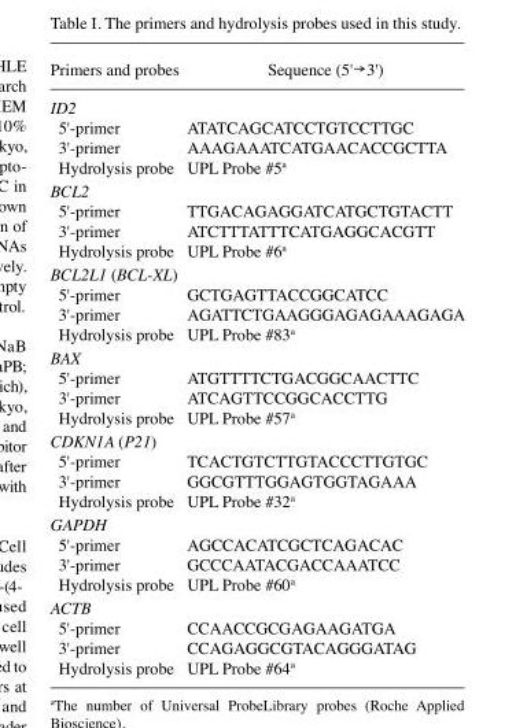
<table><thead><tr><td>Primers and probes</td><td>Sequence (5&#x27;→3&#x27;)</td></tr></thead><tbody><tr><td colspan="2">ID2</td></tr><tr><td>5&#x27;-primer</td><td>ATATCAGCATCCTGTCCTTGC</td></tr><tr><td>3&#x27;-primer</td><td>AAAGAAATCATGAACACCGCTTA</td></tr><tr><td>Hydrolysis probe</td><td>UPL Probe #5<sup>a</sup></td></tr><tr><td colspan="2">BCL2</td></tr><tr><td>5&#x27;-primer</td><td>TTGACAGAGGATCATGCTGTACTT</td></tr><tr><td>3&#x27;-primer</td><td>ATCTTTATTTCATGAGGCACGTT</td></tr><tr><td>Hydrolysis probe</td><td>UPL Probe #6<sup>a</sup></td></tr><tr><td colspan="2">BCL2L1 (BCL-XL)</td></tr><tr><td>5&#x27;-primer</td><td>GCTGAGTTACCGGCATCC</td></tr><tr><td>3&#x27;-primer</td><td>AGATTCTGAAGGGAGAGAAAGAGA</td></tr><tr><td>Hydrolysis probe</td><td>UPL Probe #83<sup>a</sup></td></tr><tr><td colspan="2">BAX</td></tr><tr><td>5&#x27;-primer</td><td>ATGTTTTCTGACGGCAACTTC</td></tr><tr><td>3&#x27;-primer</td><td>ATCAGTTCCGGCACCTTG</td></tr><tr><td>Hydrolysis probe</td><td>UPL Probe #57<sup>a</sup></td></tr><tr><td colspan="2">CDKN1A (P21)</td></tr><tr><td>5&#x27;-primer</td><td>TCACTGTCTTGTACCCTTGTGC</td></tr><tr><td>3&#x27;-primer</td><td>GGCGTTTGGAGTGGTAGAAA</td></tr><tr><td>Hydrolysis probe</td><td>UPL Probe #32<sup>a</sup></td></tr><tr><td colspan="2">GAPDH</td></tr><tr><td>5&#x27;-primer</td><td>AGCCACATCGCTCAGACAC</td></tr><tr><td>3&#x27;-primer</td><td>GCCCAATACGACCAAATCC</td></tr><tr><td>Hydrolysis probe</td><td>UPL Probe #60<sup>a</sup></td></tr><tr><td colspan="2">ACTB</td></tr><tr><td>5&#x27;-primer</td><td>CCAACCGCGAGAAGATGA</td></tr><tr><td>3&#x27;-primer</td><td>CCAGAGGCGTACAGGGATAG</td></tr><tr><td>Hydrolysis probe</td><td>UPL Probe #64<sup>a</sup></td></tr></tbody></table>